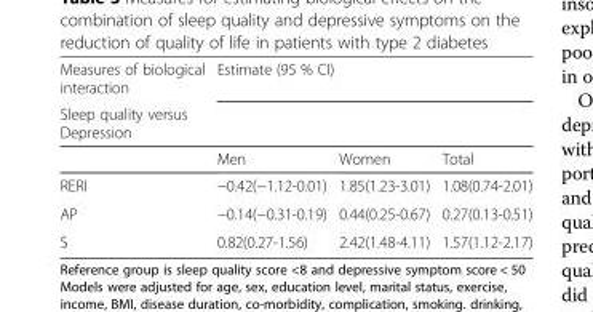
<table><thead><tr><td>Measures of biological interaction</td><td colspan="3">Estimate (95 % CI)</td></tr><tr><td colspan="4">Sleep quality versus Depression</td></tr><tr><td></td><td>Men</td><td>Women</td><td>Total</td></tr></thead><tbody><tr><td>RERI</td><td>−0.42(−1.12-0.01)</td><td>1.85(1.23-3.01)</td><td>1.08(0.74-2.01)</td></tr><tr><td>AP</td><td>−0.14(−0.31-0.19)</td><td>0.44(0.25-0.67)</td><td>0.27(0.13-0.51)</td></tr><tr><td>S</td><td>0.82(0.27-1.56)</td><td>2.42(1.48-4.11)</td><td>1.57(1.12-2.17)</td></tr></tbody></table>